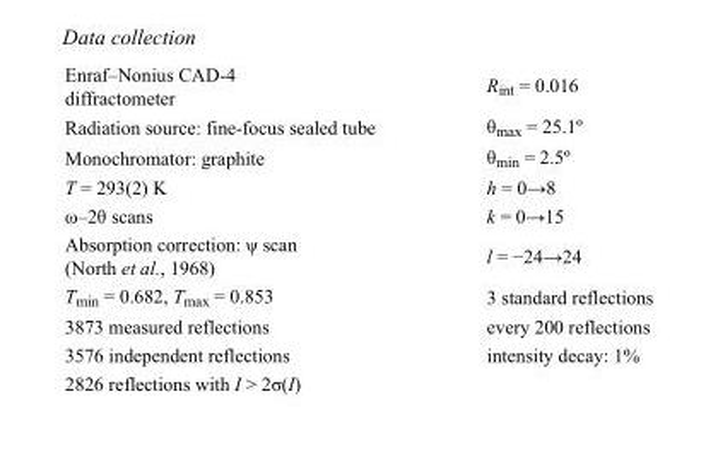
<table><tbody><tr><td>Enraf–Nonius CAD-4 diffractometer</td><td>R<sub>int</sub> = 0.016</td></tr><tr><td>Radiation source: fine-focus sealed tube</td><td>θ<sub>max</sub> = 25.1º</td></tr><tr><td>Monochromator: graphite</td><td>θ<sub>min</sub> = 2.5º</td></tr><tr><td>T = 293(2) K</td><td>h = 0→8</td></tr><tr><td>ω–2θ scans</td><td>k = 0→15</td></tr><tr><td>Absorption correction: ψ scan (North et al., 1968)</td><td>l = −24→24</td></tr><tr><td>T<sub>min</sub> = 0.682, T<sub>max</sub> = 0.853</td><td>3 standard reflections</td></tr><tr><td>3873 measured reflections</td><td>every 200 reflections</td></tr><tr><td>3576 independent reflections</td><td>intensity decay: 1%</td></tr><tr><td>2826 reflections with I &gt; 2σ(I)</td><td></td></tr></tbody></table>